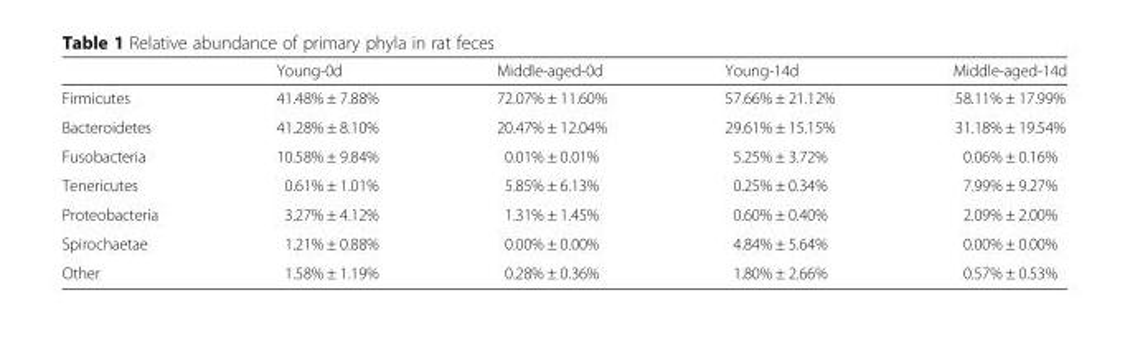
<table><thead><tr><td></td><td>Young-0d</td><td>Middle-aged-0d</td><td>Young-14d</td><td>Middle-aged-14d</td></tr></thead><tbody><tr><td>Firmicutes</td><td>41.48% ± 7.88%</td><td>72.07% ± 11.60%</td><td>57.66% ± 21.12%</td><td>58.11% ± 17.99%</td></tr><tr><td>Bacteroidetes</td><td>41.28% ± 8.10%</td><td>20.47% ± 12.04%</td><td>29.61% ± 15.15%</td><td>31.18% ± 19.54%</td></tr><tr><td>Fusobacteria</td><td>10.58% ± 9.84%</td><td>0.01% ± 0.01%</td><td>5.25% ± 3.72%</td><td>0.06% ± 0.16%</td></tr><tr><td>Tenericutes</td><td>0.61% ± 1.01%</td><td>5.85% ± 6.13%</td><td>0.25% ± 0.34%</td><td>7.99% ± 9.27%</td></tr><tr><td>Proteobacteria</td><td>3.27% ± 4.12%</td><td>1.31% ± 1.45%</td><td>0.60% ± 0.40%</td><td>2.09% ± 2.00%</td></tr><tr><td>Spirochaetae</td><td>1.21% ± 0.88%</td><td>0.00% ± 0.00%</td><td>4.84% ± 5.64%</td><td>0.00% ± 0.00%</td></tr><tr><td>Other</td><td>1.58% ± 1.19%</td><td>0.28% ± 0.36%</td><td>1.80% ± 2.66%</td><td>0.57% ± 0.53%</td></tr></tbody></table>